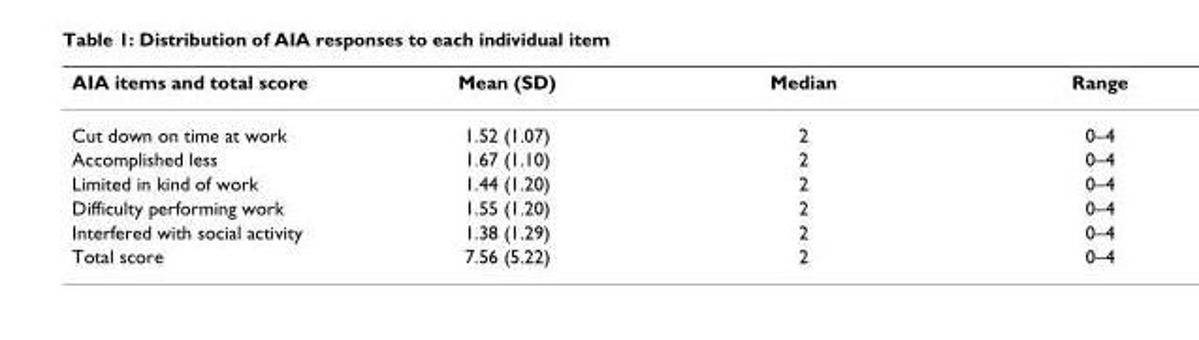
<table><thead><tr><td>AIA items and total score</td><td>Mean (SD)</td><td>Median</td><td>Range</td></tr></thead><tbody><tr><td>Cut down on time at work</td><td>1.52 (1.07)</td><td>2</td><td>0–4</td></tr><tr><td>Accomplished less</td><td>1.67 (1.10)</td><td>2</td><td>0–4</td></tr><tr><td>Limited in kind of work</td><td>1.44 (1.20)</td><td>2</td><td>0–4</td></tr><tr><td>Difficulty performing work</td><td>1.55 (1.20)</td><td>2</td><td>0–4</td></tr><tr><td>Interfered with social activity</td><td>1.38 (1.29)</td><td>2</td><td>0–4</td></tr><tr><td>Total score</td><td>7.56 (5.22)</td><td>2</td><td>0–4</td></tr></tbody></table>